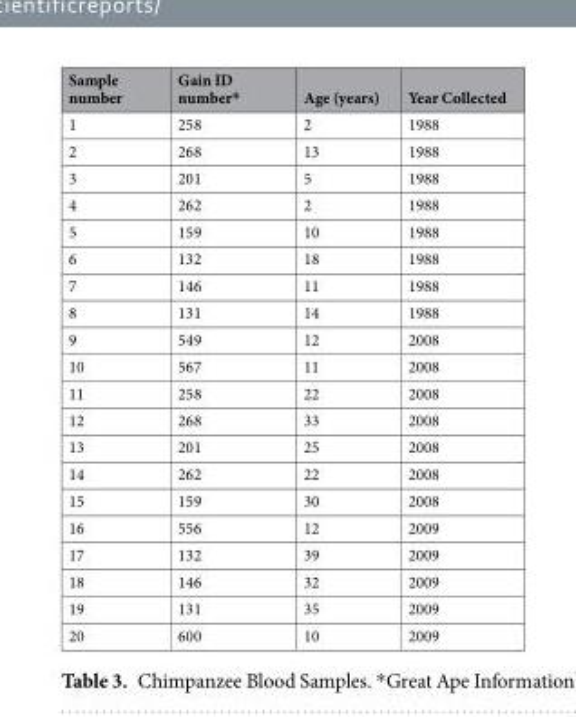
<table><thead><tr><td>Sample number</td><td>Gain ID number*</td><td>Age (years)</td><td>Year Collected</td></tr></thead><tbody><tr><td>1</td><td>258</td><td>2</td><td>1988</td></tr><tr><td>2</td><td>268</td><td>13</td><td>1988</td></tr><tr><td>3</td><td>201</td><td>5</td><td>1988</td></tr><tr><td>4</td><td>262</td><td>2</td><td>1988</td></tr><tr><td>5</td><td>159</td><td>10</td><td>1988</td></tr><tr><td>6</td><td>132</td><td>18</td><td>1988</td></tr><tr><td>7</td><td>146</td><td>11</td><td>1988</td></tr><tr><td>8</td><td>131</td><td>14</td><td>1988</td></tr><tr><td>9</td><td>549</td><td>12</td><td>2008</td></tr><tr><td>10</td><td>567</td><td>11</td><td>2008</td></tr><tr><td>11</td><td>258</td><td>22</td><td>2008</td></tr><tr><td>12</td><td>268</td><td>33</td><td>2008</td></tr><tr><td>13</td><td>201</td><td>25</td><td>2008</td></tr><tr><td>14</td><td>262</td><td>22</td><td>2008</td></tr><tr><td>15</td><td>159</td><td>30</td><td>2008</td></tr><tr><td>16</td><td>556</td><td>12</td><td>2009</td></tr><tr><td>17</td><td>132</td><td>39</td><td>2009</td></tr><tr><td>18</td><td>146</td><td>32</td><td>2009</td></tr><tr><td>19</td><td>131</td><td>35</td><td>2009</td></tr><tr><td>20</td><td>600</td><td>10</td><td>2009</td></tr></tbody></table>